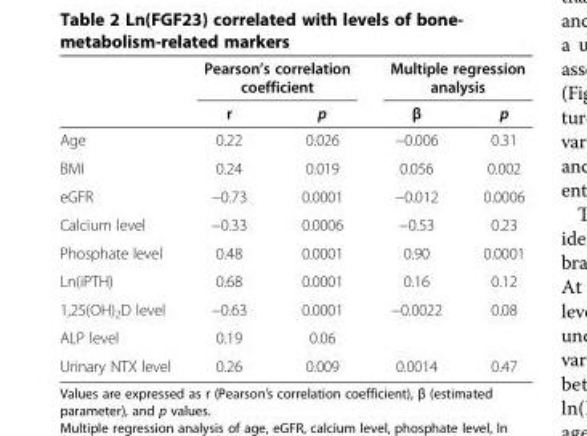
<table><thead><tr><td rowspan="2"></td><td colspan="2">Pearson’s correlation coefficient</td><td colspan="2">Multiple regression analysis</td></tr><tr><td>r</td><td>p</td><td>β</td><td>p</td></tr></thead><tbody><tr><td>Age</td><td>0.22</td><td>0.026</td><td>−0.006</td><td>0.31</td></tr><tr><td>BMI</td><td>0.24</td><td>0.019</td><td>0.056</td><td>0.002</td></tr><tr><td>eGFR</td><td>−0.73</td><td>0.0001</td><td>−0.012</td><td>0.0006</td></tr><tr><td>Calcium level</td><td>−0.33</td><td>0.0006</td><td>−0.53</td><td>0.23</td></tr><tr><td>Phosphate level</td><td>0.48</td><td>0.0001</td><td>0.90</td><td>0.0001</td></tr><tr><td>Ln(iPTH)</td><td>0.68</td><td>0.0001</td><td>0.16</td><td>0.12</td></tr><tr><td>1,25(OH)<sub>2</sub>D level</td><td>−0.63</td><td>0.0001</td><td>−0.0022</td><td>0.08</td></tr><tr><td>ALP level</td><td>0.19</td><td>0.06</td><td></td><td></td></tr><tr><td>Urinary NTX level</td><td>0.26</td><td>0.009</td><td>0.0014</td><td>0.47</td></tr></tbody></table>